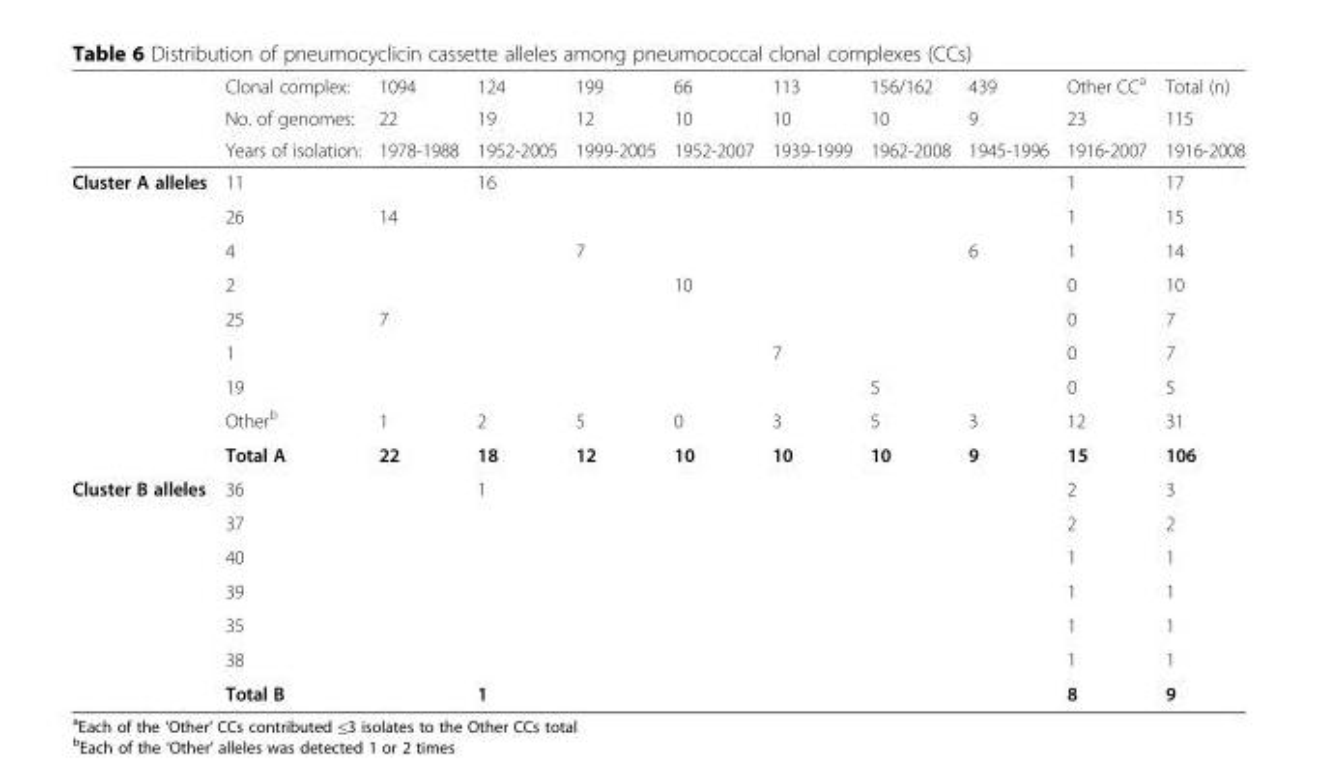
<table><thead><tr><td rowspan="3"></td><td rowspan="3">Clonal complex: No. of genomes: Years of isolation:</td><td rowspan="3">1094 22 1978-1988</td><td rowspan="3">124 19 1952-2005</td><td rowspan="3">199 12 1999-2005</td><td rowspan="3">66 10 1952-2007</td><td rowspan="3">113 10 1939-1999</td><td rowspan="3">156/162 10 1962-2008</td><td rowspan="3">439 9 1945-1996</td><td rowspan="3">Other CC<sup>a</sup> 23 1916-2007</td><td rowspan="3">Total (n) 115 1916-2008</td></tr><tr></tr><tr></tr></thead><tbody><tr><td rowspan="9">Cluster A alleles</td><td>11</td><td></td><td>16</td><td></td><td></td><td></td><td></td><td></td><td>1</td><td>17</td></tr><tr><td>26</td><td>14</td><td></td><td></td><td></td><td></td><td></td><td></td><td>1</td><td>15</td></tr><tr><td>4</td><td></td><td></td><td>7</td><td></td><td></td><td></td><td>6</td><td>1</td><td>14</td></tr><tr><td>2</td><td></td><td></td><td></td><td>10</td><td></td><td></td><td></td><td>0</td><td>10</td></tr><tr><td>25</td><td>7</td><td></td><td></td><td></td><td></td><td></td><td></td><td>0</td><td>7</td></tr><tr><td>1</td><td></td><td></td><td></td><td></td><td>7</td><td></td><td></td><td>0</td><td>7</td></tr><tr><td>19</td><td></td><td></td><td></td><td></td><td></td><td>5</td><td></td><td>0</td><td>5</td></tr><tr><td>Other<sup>b</sup></td><td>1</td><td>2</td><td>5</td><td>0</td><td>3</td><td>5</td><td>3</td><td>12</td><td>31</td></tr><tr><td>Total A</td><td>22</td><td>18</td><td>12</td><td>10</td><td>10</td><td>10</td><td>9</td><td>15</td><td>106</td></tr><tr><td rowspan="7">Cluster B alleles</td><td>36</td><td></td><td>1</td><td></td><td></td><td></td><td></td><td></td><td>2</td><td>3</td></tr><tr><td>37</td><td></td><td></td><td></td><td></td><td></td><td></td><td></td><td>2</td><td>2</td></tr><tr><td>40</td><td></td><td></td><td></td><td></td><td></td><td></td><td></td><td>1</td><td>1</td></tr><tr><td>39</td><td></td><td></td><td></td><td></td><td></td><td></td><td></td><td>1</td><td>1</td></tr><tr><td>35</td><td></td><td></td><td></td><td></td><td></td><td></td><td></td><td>1</td><td>1</td></tr><tr><td>38</td><td></td><td></td><td></td><td></td><td></td><td></td><td></td><td>1</td><td>1</td></tr><tr><td>Total B</td><td></td><td>1</td><td></td><td></td><td></td><td></td><td></td><td>8</td><td>9</td></tr></tbody></table>